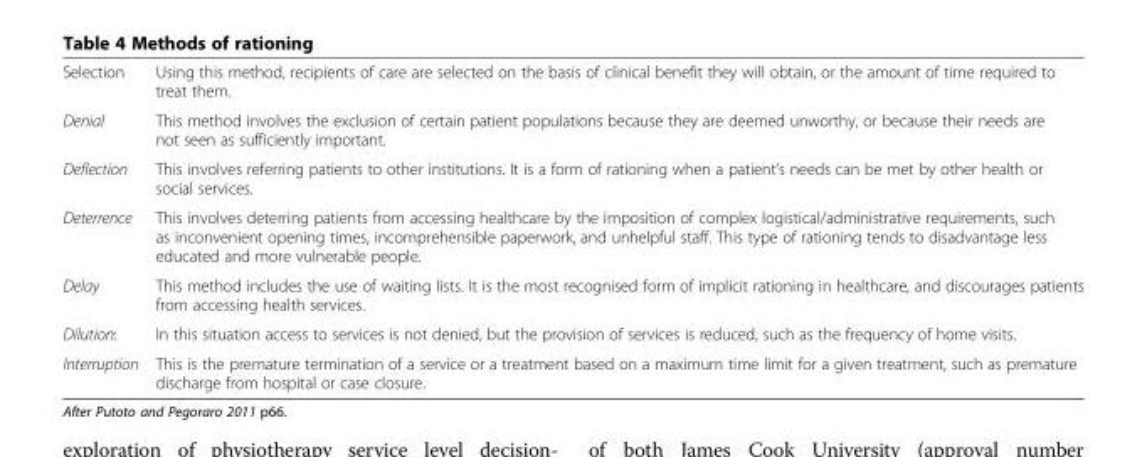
<table><tbody><tr><td>Selection</td><td>Using this method, recipients of care are selected on the basis of clinical benefit they will obtain, or the amount of time required to treat them.</td></tr><tr><td>Denial</td><td>This method involves the exclusion of certain patient populations because they are deemed unworthy, or because their needs are not seen as sufficiently important.</td></tr><tr><td>Deflection</td><td>This involves referring patients to other institutions. It is a form of rationing when a patient’s needs can be met by other health or social services.</td></tr><tr><td>Deterrence</td><td>This involves deterring patients from accessing healthcare by the imposition of complex logistical/administrative requirements, such as inconvenient opening times, incomprehensible paperwork, and unhelpful staff. This type of rationing tends to disadvantage less educated and more vulnerable people.</td></tr><tr><td>Delay</td><td>This method includes the use of waiting lists. It is the most recognised form of implicit rationing in healthcare, and discourages patients from accessing health services.</td></tr><tr><td>Dilution:</td><td>In this situation access to services is not denied, but the provision of services is reduced, such as the frequency of home visits.</td></tr><tr><td>Interruption</td><td>This is the premature termination of a service or a treatment based on a maximum time limit for a given treatment, such as premature discharge from hospital or case closure.</td></tr></tbody></table>